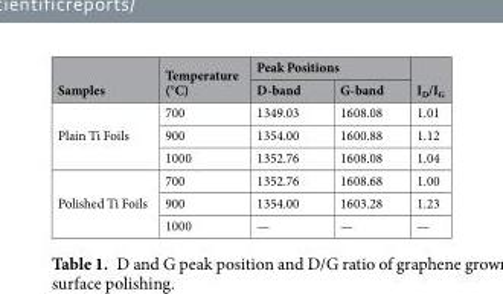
<table><thead><tr><td rowspan="2">Samples</td><td rowspan="2">Temperature (°C)</td><td colspan="2">Peak Positions</td><td rowspan="2">I<sub>D</sub>/I<sub>G</sub></td></tr><tr><td>D-band</td><td>G-band</td></tr></thead><tbody><tr><td rowspan="3">Plain Ti Foils</td><td>700</td><td>1349.03</td><td>1608.08</td><td>1.01</td></tr><tr><td>900</td><td>1354.00</td><td>1600.88</td><td>1.12</td></tr><tr><td>1000</td><td>1352.76</td><td>1608.08</td><td>1.04</td></tr><tr><td rowspan="3">Polished Ti Foils</td><td>700</td><td>1352.76</td><td>1608.68</td><td>1.00</td></tr><tr><td>900</td><td>1354.00</td><td>1603.28</td><td>1.23</td></tr><tr><td>1000</td><td>—</td><td>—</td><td>—</td></tr></tbody></table>